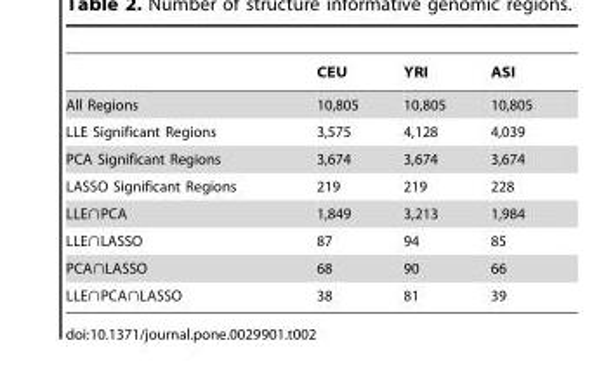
<table><thead><tr><td></td><td>CEU</td><td>YRI</td><td>ASI</td></tr></thead><tbody><tr><td>All Regions</td><td>10,805</td><td>10,805</td><td>10,805</td></tr><tr><td>LLE Significant Regions</td><td>3,575</td><td>4,128</td><td>4,039</td></tr><tr><td>PCA Significant Regions</td><td>3,674</td><td>3,674</td><td>3,674</td></tr><tr><td>LASSO Significant Regions</td><td>219</td><td>219</td><td>228</td></tr><tr><td>LLE&gt;PCA</td><td>1,849</td><td>3,213</td><td>1,984</td></tr><tr><td>LLE&gt;LASSO</td><td>87</td><td>94</td><td>85</td></tr><tr><td>PCA&gt;LASSO</td><td>68</td><td>90</td><td>66</td></tr><tr><td>LLE&gt;PCA&gt;LASSO</td><td>38</td><td>81</td><td>39</td></tr></tbody></table>